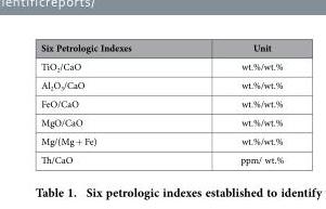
<table><thead><tr><td>Six Petrologic Indexes</td><td>Unit</td></tr></thead><tbody><tr><td>TiO<sub>2</sub>/CaO</td><td>wt.%/wt.%</td></tr><tr><td>Al<sub>2</sub>O<sub>3</sub>/CaO</td><td>wt.%/wt.%</td></tr><tr><td>FeO/CaO</td><td>wt.%/wt.%</td></tr><tr><td>MgO/CaO</td><td>wt.%/wt.%</td></tr><tr><td>Mg/(Mg + Fe)</td><td>wt.%/wt.%</td></tr><tr><td>Th/CaO</td><td>ppm/ wt.%</td></tr></tbody></table>